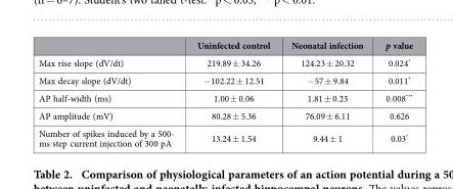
<table><thead><tr><td></td><td>Uninfected control</td><td>Neonatal infection</td><td>p value</td></tr></thead><tbody><tr><td>Max rise slope (dV/dt)</td><td>219.89 ± 34.26</td><td>124.23 ± 20.32</td><td>0.024*</td></tr><tr><td>Max decay slope (dV/dt)</td><td>− 102.22 ± 12.51</td><td>− 57 ± 9.84</td><td>0.011*</td></tr><tr><td>AP half-width (ms)</td><td>1.00 ± 0.06</td><td>1.81 ± 0.23</td><td>0.008***</td></tr><tr><td>AP amplitude (mV)</td><td>80.28 ± 5.36</td><td>76.09 ± 6.11</td><td>0.626</td></tr><tr><td>Number of spikes induced by a 500- ms step current injection of 300 pA</td><td>13.24 ± 1.54</td><td>9.44 ± 1</td><td>0.03*</td></tr></tbody></table>